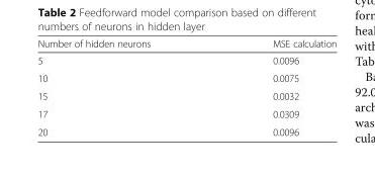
<table><thead><tr><td>Number of hidden neurons</td><td>MSE calculation</td></tr></thead><tbody><tr><td>5</td><td>0.0096</td></tr><tr><td>10</td><td>0.0075</td></tr><tr><td>15</td><td>0.0032</td></tr><tr><td>17</td><td>0.0309</td></tr><tr><td>20</td><td>0.0096</td></tr></tbody></table>